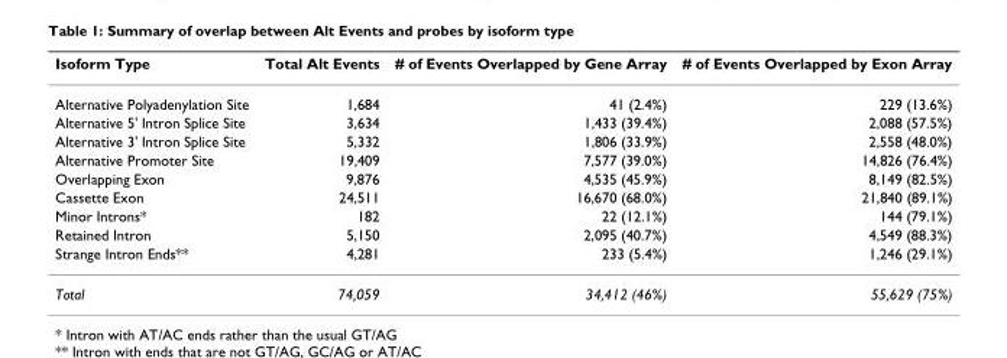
<table><thead><tr><td>Isoform Type</td><td>Total Alt Events</td><td># of Events Overlapped by Gene Array</td><td># of Events Overlapped by Exon Array</td></tr></thead><tbody><tr><td>Alternative Polyadenylation Site</td><td>1,684</td><td>41 (2.4%)</td><td>229 (13.6%)</td></tr><tr><td>Alternative 5&#x27; Intron Splice Site</td><td>3,634</td><td>1,433 (39.4%)</td><td>2,088 (57.5%)</td></tr><tr><td>Alternative 3&#x27; Intron Splice Site</td><td>5,332</td><td>1,806 (33.9%)</td><td>2,558 (48.0%)</td></tr><tr><td>Alternative Promoter Site</td><td>19,409</td><td>7,577 (39.0%)</td><td>14,826 (76.4%)</td></tr><tr><td>Overlapping Exon</td><td>9,876</td><td>4,535 (45.9%)</td><td>8,149 (82.5%)</td></tr><tr><td>Cassette Exon</td><td>24,511</td><td>16,670 (68.0%)</td><td>21,840 (89.1%)</td></tr><tr><td>Minor Introns*</td><td>182</td><td>22 (12.1%)</td><td>144 (79.1%)</td></tr><tr><td>Retained Intron</td><td>5,150</td><td>2,095 (40.7%)</td><td>4,549 (88.3%)</td></tr><tr><td>Strange Intron Ends**</td><td>4,281</td><td>233 (5.4%)</td><td>1,246 (29.1%)</td></tr><tr><td>Total</td><td>74,059</td><td>34,412 (46%)</td><td>55,629 (75%)</td></tr></tbody></table>